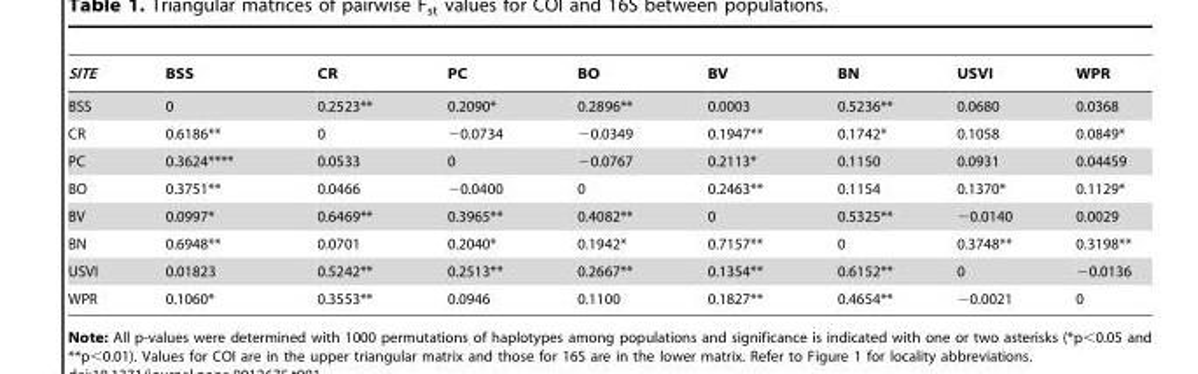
<table><thead><tr><td>SITE</td><td>BSS</td><td>CR</td><td>PC</td><td>BO</td><td>BV</td><td>BN</td><td>USVI</td><td>WPR</td></tr></thead><tbody><tr><td>BSS</td><td>0</td><td>0.2523**</td><td>0.2090*</td><td>0.2896**</td><td>0.0003</td><td>0.5236**</td><td>0.0680</td><td>0.0368</td></tr><tr><td>CR</td><td>0.6186**</td><td>0</td><td>−0.0734</td><td>−0.0349</td><td>0.1947**</td><td>0.1742*</td><td>0.1058</td><td>0.0849*</td></tr><tr><td>PC</td><td>0.3624****</td><td>0.0533</td><td>0</td><td>−0.0767</td><td>0.2113*</td><td>0.1150</td><td>0.0931</td><td>0.04459</td></tr><tr><td>BO</td><td>0.3751**</td><td>0.0466</td><td>−0.0400</td><td>0</td><td>0.2463**</td><td>0.1154</td><td>0.1370*</td><td>0.1129*</td></tr><tr><td>BV</td><td>0.0997*</td><td>0.6469**</td><td>0.3965**</td><td>0.4082**</td><td>0</td><td>0.5325**</td><td>−0.0140</td><td>0.0029</td></tr><tr><td>BN</td><td>0.6948**</td><td>0.0701</td><td>0.2040*</td><td>0.1942*</td><td>0.7157**</td><td>0</td><td>0.3748**</td><td>0.3198**</td></tr><tr><td>USVI</td><td>0.01823</td><td>0.5242**</td><td>0.2513**</td><td>0.2667**</td><td>0.1354**</td><td>0.6152**</td><td>0</td><td>−0.0136</td></tr><tr><td>WPR</td><td>0.1060*</td><td>0.3553**</td><td>0.0946</td><td>0.1100</td><td>0.1827**</td><td>0.4654**</td><td>−0.0021</td><td>0</td></tr></tbody></table>